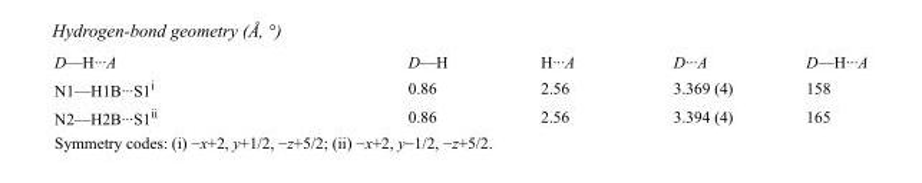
<table><tbody><tr><td>D—H···A</td><td>D—H</td><td>H···A</td><td>D···A</td><td>D—H···A</td></tr><tr><td>N1—H1B···S1<sup>i</sup></td><td>0.86</td><td>2.56</td><td>3.369 (4)</td><td>158</td></tr><tr><td>N2—H2B···S1<sup>ii</sup></td><td>0.86</td><td>2.56</td><td>3.394 (4)</td><td>165</td></tr></tbody></table>